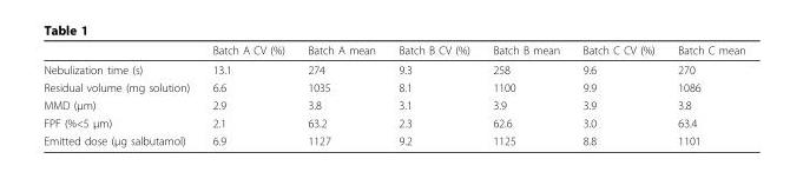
<table><thead><tr><td></td><td>Batch A CV (%)</td><td>Batch A mean</td><td>Batch B CV (%)</td><td>Batch B mean</td><td>Batch C CV (%)</td><td>Batch C mean</td></tr></thead><tbody><tr><td>Nebulization time (s)</td><td>13.1</td><td>274</td><td>9.3</td><td>258</td><td>9.6</td><td>270</td></tr><tr><td>Residual volume (mg solution)</td><td>6.6</td><td>1035</td><td>8.1</td><td>1100</td><td>9.9</td><td>1086</td></tr><tr><td>MMD (µm)</td><td>2.9</td><td>3.8</td><td>3.1</td><td>3.9</td><td>3.9</td><td>3.8</td></tr><tr><td>FPF (%&lt;5 µm)</td><td>2.1</td><td>63.2</td><td>2.3</td><td>62.6</td><td>3.0</td><td>63.4</td></tr><tr><td>Emitted dose (µg salbutamol)</td><td>6.9</td><td>1127</td><td>9.2</td><td>1125</td><td>8.8</td><td>1101</td></tr></tbody></table>